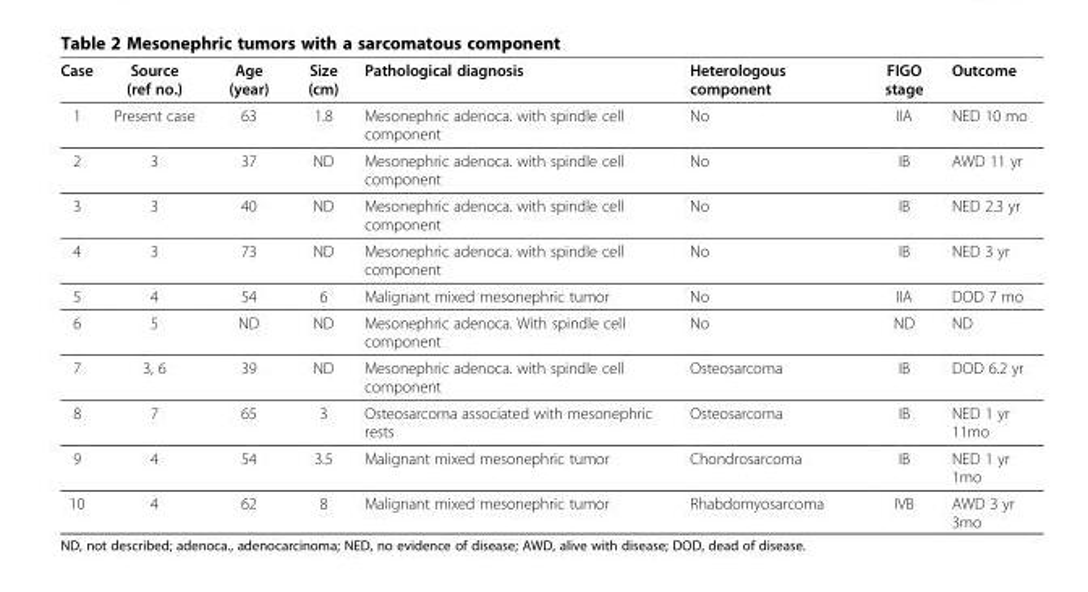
<table><thead><tr><td>Case</td><td>Source (ref no.)</td><td>Age (year)</td><td>Size (cm)</td><td>Pathological diagnosis</td><td>Heterologous component</td><td>FIGO stage</td><td>Outcome</td></tr></thead><tbody><tr><td>1</td><td>Present case</td><td>63</td><td>1.8</td><td>Mesonephric adenoca. with spindle cell component</td><td>No</td><td>IIA</td><td>NED 10 mo</td></tr><tr><td>2</td><td>3</td><td>37</td><td>ND</td><td>Mesonephric adenoca. with spindle cell component</td><td>No</td><td>IB</td><td>AWD 11 yr</td></tr><tr><td>3</td><td>3</td><td>40</td><td>ND</td><td>Mesonephric adenoca. with spindle cell component</td><td>No</td><td>IB</td><td>NED 2.3 yr</td></tr><tr><td>4</td><td>3</td><td>73</td><td>ND</td><td>Mesonephric adenoca. with spindle cell component</td><td>No</td><td>IB</td><td>NED 3 yr</td></tr><tr><td>5</td><td>4</td><td>54</td><td>6</td><td>Malignant mixed mesonephric tumor</td><td>No</td><td>IIA</td><td>DOD 7 mo</td></tr><tr><td>6</td><td>5</td><td>ND</td><td>ND</td><td>Mesonephric adenoca. With spindle cell component</td><td>No</td><td>ND</td><td>ND</td></tr><tr><td>7</td><td>3, 6</td><td>39</td><td>ND</td><td>Mesonephric adenoca. with spindle cell component</td><td>Osteosarcoma</td><td>IB</td><td>DOD 6.2 yr</td></tr><tr><td>8</td><td>7</td><td>65</td><td>3</td><td>Osteosarcoma associated with mesonephric rests</td><td>Osteosarcoma</td><td>IB</td><td>NED 1 yr 11mo</td></tr><tr><td>9</td><td>4</td><td>54</td><td>3.5</td><td>Malignant mixed mesonephric tumor</td><td>Chondrosarcoma</td><td>IB</td><td>NED 1 yr 1mo</td></tr><tr><td>10</td><td>4</td><td>62</td><td>8</td><td>Malignant mixed mesonephric tumor</td><td>Rhabdomyosarcoma</td><td>IVB</td><td>AWD 3 yr 3mo</td></tr></tbody></table>